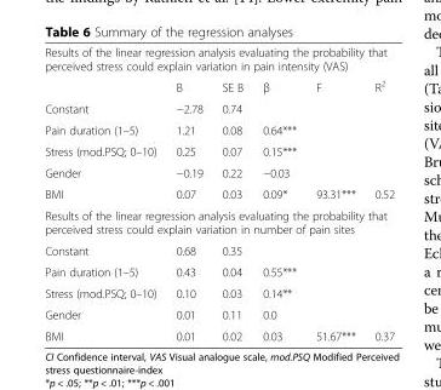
<table><tbody><tr><td colspan="6">Results of the linear regression analysis evaluating the probability that perceived stress could explain variation in pain intensity (VAS)</td></tr><tr><td></td><td>В</td><td>SE B</td><td>β</td><td>F</td><td>R<sup>2</sup></td></tr><tr><td>Constant</td><td>−2.78</td><td>0.74</td><td></td><td></td><td></td></tr><tr><td>Pain duration (1–5)</td><td>1.21</td><td>0.08</td><td>0.64***</td><td></td><td></td></tr><tr><td>Stress (mod.PSQ; 0–10)</td><td>0.25</td><td>0.07</td><td>0.15***</td><td></td><td></td></tr><tr><td>Gender</td><td>−0.19</td><td>0.22</td><td>−0.03</td><td></td><td></td></tr><tr><td>BMI</td><td>0.07</td><td>0.03</td><td>0.09*</td><td>93.31***</td><td>0.52</td></tr><tr><td colspan="6">Results of the linear regression analysis evaluating the probability that perceived stress could explain variation in number of pain sites</td></tr><tr><td>Constant</td><td>0.68</td><td>0.35</td><td></td><td></td><td></td></tr><tr><td>Pain duration (1–5)</td><td>0.43</td><td>0.04</td><td>0.55***</td><td></td><td></td></tr><tr><td>Stress (mod.PSQ; 0–10)</td><td>0.10</td><td>0.03</td><td>0.14**</td><td></td><td></td></tr><tr><td>Gender</td><td>0.01</td><td>0.11</td><td>0.0</td><td></td><td></td></tr><tr><td>BMI</td><td>0.01</td><td>0.02</td><td>0.03</td><td>51.67***</td><td>0.37</td></tr></tbody></table>